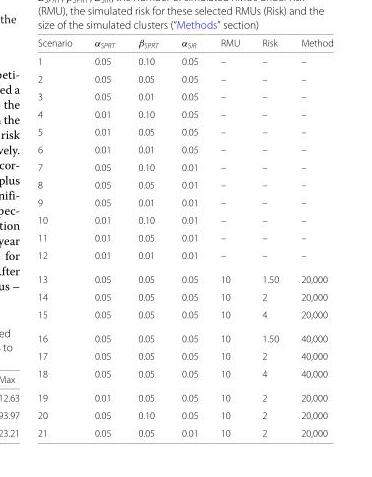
<table><thead><tr><td>Scenario</td><td>α<sub>SPRT</sub></td><td>β<sub>SPRT</sub></td><td>α<sub>SIR</sub></td><td>RMU</td><td>Risk</td><td>Method</td></tr></thead><tbody><tr><td>1</td><td>0.05</td><td>0.10</td><td>0.05</td><td>–</td><td>–</td><td>–</td></tr><tr><td>2</td><td>0.05</td><td>0.05</td><td>0.05</td><td>–</td><td>–</td><td>–</td></tr><tr><td>3</td><td>0.05</td><td>0.01</td><td>0.05</td><td>–</td><td>–</td><td>–</td></tr><tr><td>4</td><td>0.01</td><td>0.10</td><td>0.05</td><td>–</td><td>–</td><td>–</td></tr><tr><td>5</td><td>0.01</td><td>0.05</td><td>0.05</td><td>–</td><td>–</td><td>–</td></tr><tr><td>6</td><td>0.01</td><td>0.01</td><td>0.05</td><td>–</td><td>–</td><td>–</td></tr><tr><td>7</td><td>0.05</td><td>0.10</td><td>0.01</td><td>–</td><td>–</td><td>–</td></tr><tr><td>8</td><td>0.05</td><td>0.05</td><td>0.01</td><td>–</td><td>–</td><td>–</td></tr><tr><td>9</td><td>0.05</td><td>0.01</td><td>0.01</td><td>–</td><td>–</td><td>–</td></tr><tr><td>10</td><td>0.01</td><td>0.10</td><td>0.01</td><td>–</td><td>–</td><td>–</td></tr><tr><td>11</td><td>0.01</td><td>0.05</td><td>0.01</td><td>–</td><td>–</td><td>–</td></tr><tr><td>12</td><td>0.01</td><td>0.01</td><td>0.01</td><td>–</td><td>–</td><td>–</td></tr><tr><td>13</td><td>0.05</td><td>0.05</td><td>0.05</td><td>10</td><td>1.50</td><td>20,000</td></tr><tr><td>14</td><td>0.05</td><td>0.05</td><td>0.05</td><td>10</td><td>2</td><td>20,000</td></tr><tr><td>15</td><td>0.05</td><td>0.05</td><td>0.05</td><td>10</td><td>4</td><td>20,000</td></tr><tr><td>16</td><td>0.05</td><td>0.05</td><td>0.05</td><td>10</td><td>1.50</td><td>40,000</td></tr><tr><td>17</td><td>0.05</td><td>0.05</td><td>0.05</td><td>10</td><td>2</td><td>40,000</td></tr><tr><td>18</td><td>0.05</td><td>0.05</td><td>0.05</td><td>10</td><td>4</td><td>40,000</td></tr><tr><td>19</td><td>0.01</td><td>0.05</td><td>0.05</td><td>10</td><td>2</td><td>20,000</td></tr><tr><td>20</td><td>0.05</td><td>0.10</td><td>0.05</td><td>10</td><td>2</td><td>20,000</td></tr><tr><td>21</td><td>0.05</td><td>0.05</td><td>0.01</td><td>10</td><td>2</td><td>20,000</td></tr></tbody></table>